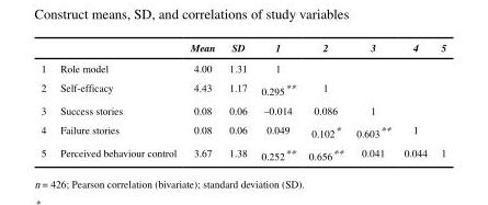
<table><thead><tr><td></td><td></td><td>Mean</td><td>SD</td><td>1</td><td>2</td><td>3</td><td>4</td><td>5</td></tr></thead><tbody><tr><td>1</td><td>Role model</td><td>4.00</td><td>1.31</td><td>1</td><td></td><td></td><td></td><td></td></tr><tr><td>2</td><td>Self-efficacy</td><td>4.43</td><td>1.17</td><td>0.295**</td><td>1</td><td></td><td></td><td></td></tr><tr><td>3</td><td>Success stories</td><td>0.08</td><td>0.06</td><td>–0.014</td><td>0.086</td><td>1</td><td></td><td></td></tr><tr><td>4</td><td>Failure stories</td><td>0.08</td><td>0.06</td><td>0.049</td><td>0.102*</td><td>0.603**</td><td>1</td><td></td></tr><tr><td>5</td><td>Perceived behaviour control</td><td>3.67</td><td>1.38</td><td>0.252**</td><td>0.656**</td><td>0.041</td><td>0.044</td><td>1</td></tr></tbody></table>